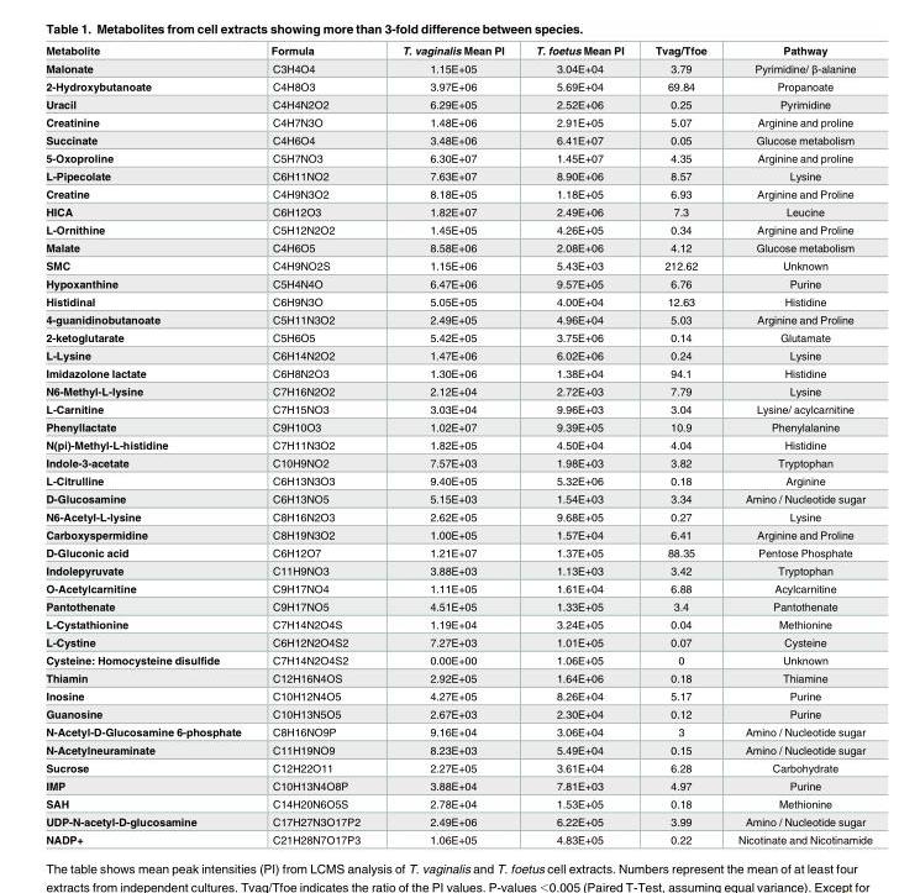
<table><thead><tr><td>Metabolite</td><td>Formula</td><td>T. vaginalis Mean PI</td><td>T. foetus Mean PI</td><td>Tvag/Tfoe</td><td>Pathway</td></tr></thead><tbody><tr><td>Malonate</td><td>C3H4O4</td><td>1.15E+05</td><td>3.04E+04</td><td>3.79</td><td>Pyrimidine/ β-alanine</td></tr><tr><td>2-Hydroxybutanoate</td><td>C4H8O3</td><td>3.97E+06</td><td>5.69E+04</td><td>69.84</td><td>Propanoate</td></tr><tr><td>Uracil</td><td>C4H4N2O2</td><td>6.29E+05</td><td>2.52E+06</td><td>0.25</td><td>Pyrimidine</td></tr><tr><td>Creatinine</td><td>C4H7N3O</td><td>1.48E+06</td><td>2.91E+05</td><td>5.07</td><td>Arginine and proline</td></tr><tr><td>Succinate</td><td>C4H6O4</td><td>3.48E+06</td><td>6.41E+07</td><td>0.05</td><td>Glucose metabolism</td></tr><tr><td>5-Oxoproline</td><td>C5H7NO3</td><td>6.30E+07</td><td>1.45E+07</td><td>4.35</td><td>Arginine and proline</td></tr><tr><td>L-Pipecolate</td><td>C6H11NO2</td><td>7.63E+07</td><td>8.90E+06</td><td>8.57</td><td>Lysine</td></tr><tr><td>Creatine</td><td>C4H9N3O2</td><td>8.18E+05</td><td>1.18E+05</td><td>6.93</td><td>Arginine and Proline</td></tr><tr><td>HICA</td><td>C6H12O3</td><td>1.82E+07</td><td>2.49E+06</td><td>7.3</td><td>Leucine</td></tr><tr><td>L-Ornithine</td><td>C5H12N2O2</td><td>1.45E+05</td><td>4.26E+05</td><td>0.34</td><td>Arginine and Proline</td></tr><tr><td>Malate</td><td>C4H6O5</td><td>8.58E+06</td><td>2.08E+06</td><td>4.12</td><td>Glucose metabolism</td></tr><tr><td>SMC</td><td>C4H9NO2S</td><td>1.15E+06</td><td>5.43E+03</td><td>212.62</td><td>Unknown</td></tr><tr><td>Hypoxanthine</td><td>C5H4N4O</td><td>6.47E+06</td><td>9.57E+05</td><td>6.76</td><td>Purine</td></tr><tr><td>Histidinal</td><td>C6H9N3O</td><td>5.05E+05</td><td>4.00E+04</td><td>12.63</td><td>Histidine</td></tr><tr><td>4-guanidinobutanoate</td><td>C5H11N3O2</td><td>2.49E+05</td><td>4.96E+04</td><td>5.03</td><td>Arginine and Proline</td></tr><tr><td>2-ketoglutarate</td><td>C5H6O5</td><td>5.42E+05</td><td>3.75E+06</td><td>0.14</td><td>Glutamate</td></tr><tr><td>L-Lysine</td><td>C6H14N2O2</td><td>1.47E+06</td><td>6.02E+06</td><td>0.24</td><td>Lysine</td></tr><tr><td>Imidazolone lactate</td><td>C6H8N2O3</td><td>1.30E+06</td><td>1.38E+04</td><td>94.1</td><td>Histidine</td></tr><tr><td>N6-Methyl-L-lysine</td><td>C7H16N2O2</td><td>2.12E+04</td><td>2.72E+03</td><td>7.79</td><td>Lysine</td></tr><tr><td>L-Carnitine</td><td>C7H15NO3</td><td>3.03E+04</td><td>9.96E+03</td><td>3.04</td><td>Lysine/ acylcarnitine</td></tr><tr><td>Phenyllactate</td><td>C9H10O3</td><td>1.02E+07</td><td>9.39E+05</td><td>10.9</td><td>Phenylalanine</td></tr><tr><td>N(pi)-Methyl-L-histidine</td><td>C7H11N3O2</td><td>1.82E+05</td><td>4.50E+04</td><td>4.04</td><td>Histidine</td></tr><tr><td>Indole-3-acetate</td><td>C10H9NO2</td><td>7.57E+03</td><td>1.98E+03</td><td>3.82</td><td>Tryptophan</td></tr><tr><td>L-Citrulline</td><td>C6H13N3O3</td><td>9.40E+05</td><td>5.32E+06</td><td>0.18</td><td>Arginine</td></tr><tr><td>D-Glucosamine</td><td>C6H13NO5</td><td>5.15E+03</td><td>1.54E+03</td><td>3.34</td><td>Amino / Nucleotide sugar</td></tr><tr><td>N6-Acetyl-L-lysine</td><td>C8H16N2O3</td><td>2.62E+05</td><td>9.68E+05</td><td>0.27</td><td>Lysine</td></tr><tr><td>Carboxyspermidine</td><td>C8H19N3O2</td><td>1.00E+05</td><td>1.57E+04</td><td>6.41</td><td>Arginine and Proline</td></tr><tr><td>D-Gluconic acid</td><td>C6H12O7</td><td>1.21E+07</td><td>1.37E+05</td><td>88.35</td><td>Pentose Phosphate</td></tr><tr><td>Indolepyruvate</td><td>C11H9NO3</td><td>3.88E+03</td><td>1.13E+03</td><td>3.42</td><td>Tryptophan</td></tr><tr><td>O-Acetylcarnitine</td><td>C9H17NO4</td><td>1.11E+05</td><td>1.61E+04</td><td>6.88</td><td>Acylcarnitine</td></tr><tr><td>Pantothenate</td><td>C9H17NO5</td><td>4.51E+05</td><td>1.33E+05</td><td>3.4</td><td>Pantothenate</td></tr><tr><td>L-Cystathionine</td><td>C7H14N2O4S</td><td>1.19E+04</td><td>3.24E+05</td><td>0.04</td><td>Methionine</td></tr><tr><td>L-Cystine</td><td>C6H12N2O4S2</td><td>7.27E+03</td><td>1.01E+05</td><td>0.07</td><td>Cysteine</td></tr><tr><td>Cysteine: Homocysteine disulfide</td><td>C7H14N2O4S2</td><td>0.00E+00</td><td>1.06E+05</td><td>0</td><td>Unknown</td></tr><tr><td>Thiamin</td><td>C12H16N4OS</td><td>2.92E+05</td><td>1.64E+06</td><td>0.18</td><td>Thiamine</td></tr><tr><td>Inosine</td><td>C10H12N4O5</td><td>4.27E+05</td><td>8.26E+04</td><td>5.17</td><td>Purine</td></tr><tr><td>Guanosine</td><td>C10H13N5O5</td><td>2.67E+03</td><td>2.30E+04</td><td>0.12</td><td>Purine</td></tr><tr><td>N-Acetyl-D-Glucosamine 6-phosphate</td><td>C8H16NO9P</td><td>9.16E+04</td><td>3.06E+04</td><td>3</td><td>Amino / Nucleotide sugar</td></tr><tr><td>N-Acetylneuraminate</td><td>C11H19NO9</td><td>8.23E+03</td><td>5.49E+04</td><td>0.15</td><td>Amino / Nucleotide sugar</td></tr><tr><td>Sucrose</td><td>C12H22O11</td><td>2.27E+05</td><td>3.61E+04</td><td>6.28</td><td>Carbohydrate</td></tr><tr><td>IMP</td><td>C10H13N4O8P</td><td>3.88E+04</td><td>7.81E+03</td><td>4.97</td><td>Purine</td></tr><tr><td>SAH</td><td>C14H20N6O5S</td><td>2.78E+04</td><td>1.53E+05</td><td>0.18</td><td>Methionine</td></tr><tr><td>UDP-N-acetyl-D-glucosamine</td><td>C17H27N3O17P2</td><td>2.49E+06</td><td>6.22E+05</td><td>3.99</td><td>Amino / Nucleotide sugar</td></tr><tr><td>NADP+</td><td>C21H28N7O17P3</td><td>1.06E+05</td><td>4.83E+05</td><td>0.22</td><td>Nicotinate and Nicotinamide</td></tr></tbody></table>